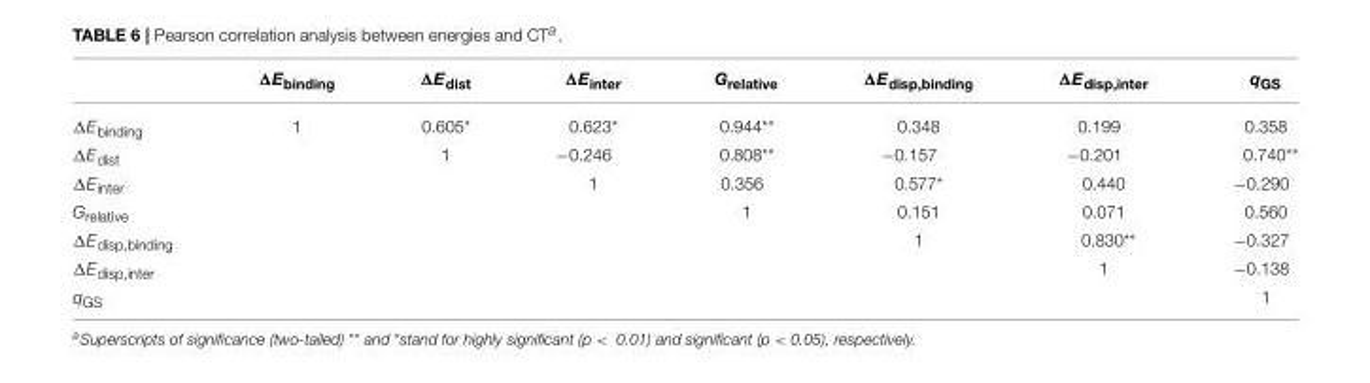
<table><thead><tr><td></td><td>ΔE<sub>binding</sub></td><td>ΔE<sub>dist</sub></td><td>ΔE<sub>inter</sub></td><td>G<sub>relative</sub></td><td>ΔE<sub>disp,binding</sub></td><td>ΔE<sub>disp,inter</sub></td><td>q<sub>GS</sub></td></tr></thead><tbody><tr><td>ΔE<sub>binding</sub></td><td>1</td><td>0.605*</td><td>0.623*</td><td>0.944**</td><td>0.348</td><td>0.199</td><td>0.358</td></tr><tr><td>ΔE<sub>dist</sub></td><td></td><td>1</td><td>−0.246</td><td>0.808**</td><td>−0.157</td><td>−0.201</td><td>0.740**</td></tr><tr><td>ΔE<sub>inter</sub></td><td></td><td></td><td>1</td><td>0.356</td><td>0.577*</td><td>0.440</td><td>−0.290</td></tr><tr><td>G<sub>relative</sub></td><td></td><td></td><td></td><td>1</td><td>0.151</td><td>0.071</td><td>0.560</td></tr><tr><td>ΔE<sub>disp,binding</sub></td><td></td><td></td><td></td><td></td><td>1</td><td>0.830**</td><td>−0.327</td></tr><tr><td>ΔE<sub>disp,inter</sub></td><td></td><td></td><td></td><td></td><td></td><td>1</td><td>−0.138</td></tr><tr><td>q<sub>GS</sub></td><td></td><td></td><td></td><td></td><td></td><td></td><td>1</td></tr></tbody></table>